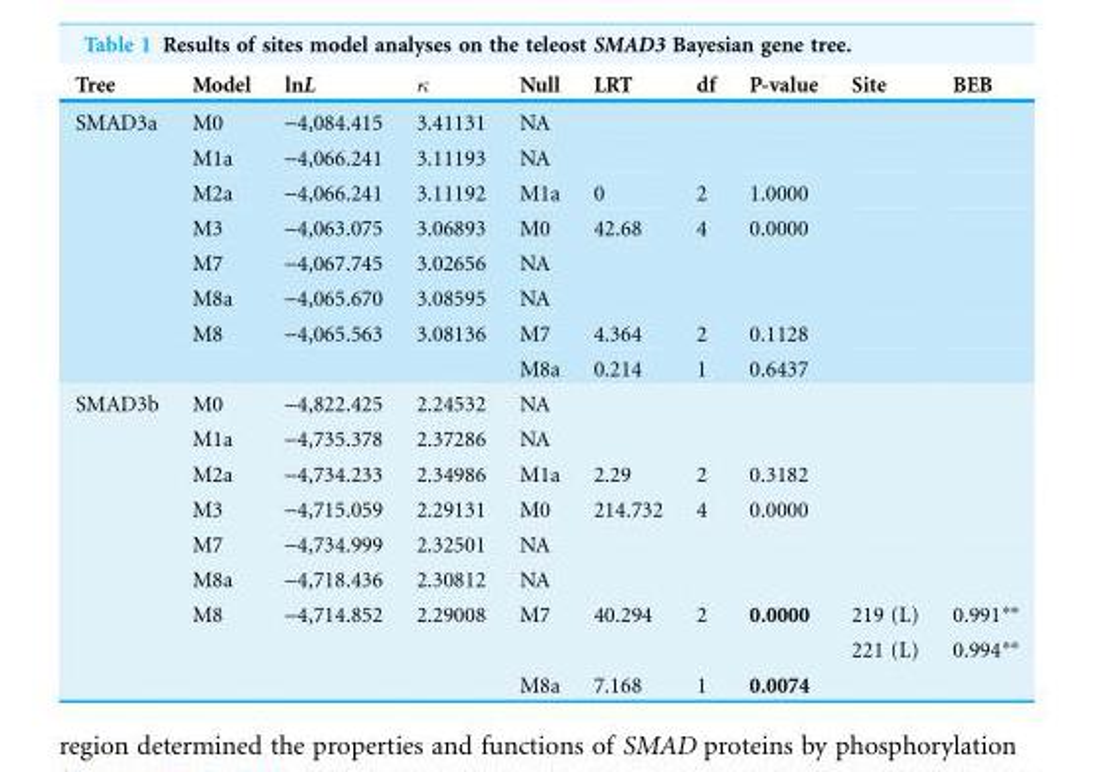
<table><thead><tr><td>Tree</td><td>Model</td><td>lnL</td><td>κ</td><td>Null</td><td>LRT</td><td>df</td><td>P-value</td><td>Site</td><td>BEB</td></tr></thead><tbody><tr><td rowspan="8">SMAD3a</td><td>M0</td><td>-4,084.415</td><td>3.41131</td><td>NA</td><td></td><td></td><td></td><td></td><td></td></tr><tr><td>M1a</td><td>-4,066.241</td><td>3.11193</td><td>NA</td><td></td><td></td><td></td><td></td><td></td></tr><tr><td>M2a</td><td>-4,066.241</td><td>3.11192</td><td>M1a</td><td>0</td><td>2</td><td>1.0000</td><td></td><td></td></tr><tr><td>M3</td><td>-4,063.075</td><td>3.06893</td><td>M0</td><td>42.68</td><td>4</td><td>0.0000</td><td></td><td></td></tr><tr><td>M7</td><td>-4,067.745</td><td>3.02656</td><td>NA</td><td></td><td></td><td></td><td></td><td></td></tr><tr><td>M8a</td><td>-4,065.670</td><td>3.08595</td><td>NA</td><td></td><td></td><td></td><td></td><td></td></tr><tr><td>M8</td><td>-4,065.563</td><td>3.08136</td><td>M7</td><td>4.364</td><td>2</td><td>0.1128</td><td></td><td></td></tr><tr><td></td><td></td><td></td><td>M8a</td><td>0.214</td><td>1</td><td>0.6437</td><td></td><td></td></tr><tr><td rowspan="9">SMAD3b</td><td>M0</td><td>-4,822.425</td><td>2.24532</td><td>NA</td><td></td><td></td><td></td><td></td><td></td></tr><tr><td>M1a</td><td>-4,735.378</td><td>2.37286</td><td>NA</td><td></td><td></td><td></td><td></td><td></td></tr><tr><td>M2a</td><td>-4,734.233</td><td>2.34986</td><td>M1a</td><td>2.29</td><td>2</td><td>0.3182</td><td></td><td></td></tr><tr><td>M3</td><td>-4,715.059</td><td>2.29131</td><td>M0</td><td>214.732</td><td>4</td><td>0.0000</td><td></td><td></td></tr><tr><td>M7</td><td>-4,734.999</td><td>2.32501</td><td>NA</td><td></td><td></td><td></td><td></td><td></td></tr><tr><td>M8a</td><td>-4,718.436</td><td>2.30812</td><td>NA</td><td></td><td></td><td></td><td></td><td></td></tr><tr><td>M8</td><td>-4,714.852</td><td>2.29008</td><td>M7</td><td>40.294</td><td>2</td><td>0.0000</td><td>219 (L)</td><td>0.991**</td></tr><tr><td></td><td></td><td></td><td></td><td></td><td></td><td></td><td>221 (L)</td><td>0.994**</td></tr><tr><td></td><td></td><td></td><td>M8a</td><td>7.168</td><td>1</td><td>0.0074</td><td></td><td></td></tr></tbody></table>